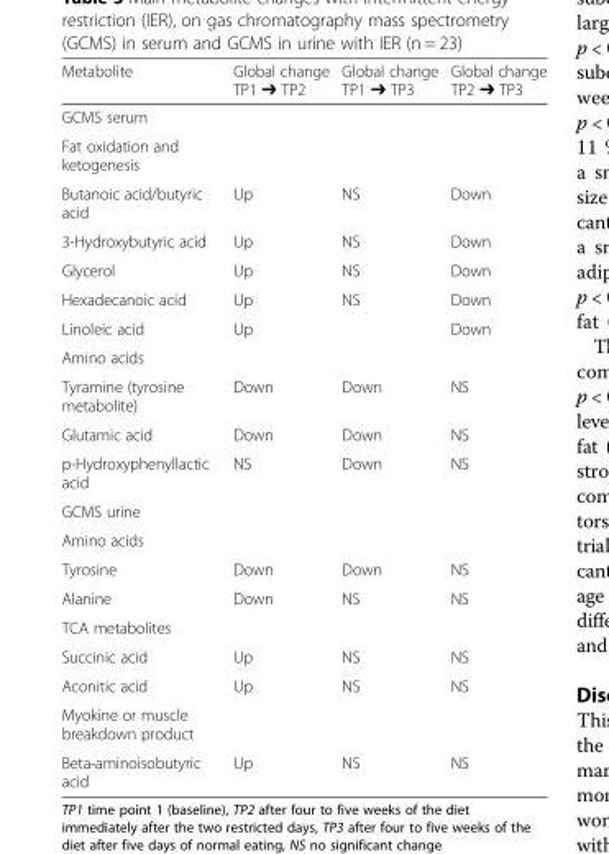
<table><thead><tr><td>Metabolite</td><td>Global change TP1 ➔ TP2</td><td>Global change TP1 ➔ TP3</td><td>Global change TP2 ➔ TP3</td></tr></thead><tbody><tr><td colspan="4">GCMS serum</td></tr><tr><td colspan="4">Fat oxidation and ketogenesis</td></tr><tr><td>Butanoic acid/butyric acid</td><td>Up</td><td>NS</td><td>Down</td></tr><tr><td>3-Hydroxybutyric acid</td><td>Up</td><td>NS</td><td>Down</td></tr><tr><td>Glycerol</td><td>Up</td><td>NS</td><td>Down</td></tr><tr><td>Hexadecanoic acid</td><td>Up</td><td>NS</td><td>Down</td></tr><tr><td>Linoleic acid</td><td>Up</td><td></td><td>Down</td></tr><tr><td colspan="4">Amino acids</td></tr><tr><td>Tyramine (tyrosine metabolite)</td><td>Down</td><td>Down</td><td>NS</td></tr><tr><td>Glutamic acid</td><td>Down</td><td>Down</td><td>NS</td></tr><tr><td>p-Hydroxyphenyllactic acid</td><td>NS</td><td>Down</td><td>NS</td></tr><tr><td colspan="4">GCMS urine</td></tr><tr><td colspan="4">Amino acids</td></tr><tr><td>Tyrosine</td><td>Down</td><td>Down</td><td>NS</td></tr><tr><td>Alanine</td><td>Down</td><td>NS</td><td>NS</td></tr><tr><td colspan="4">TCA metabolites</td></tr><tr><td>Succinic acid</td><td>Up</td><td>NS</td><td>NS</td></tr><tr><td>Aconitic acid</td><td>Up</td><td>NS</td><td>NS</td></tr><tr><td colspan="4">Myokine or muscle breakdown product</td></tr><tr><td>Beta-aminoisobutyric acid</td><td>Up</td><td>NS</td><td>NS</td></tr></tbody></table>